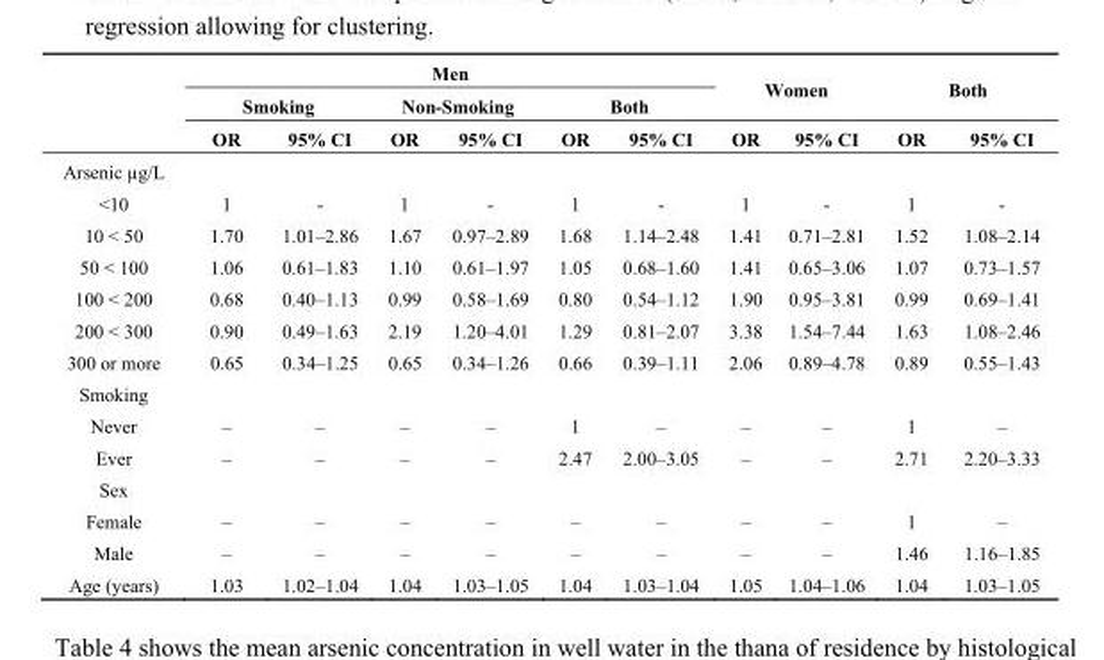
<table><thead><tr><td rowspan="3"></td><td colspan="6">Men</td><td rowspan="2" colspan="2">Women</td><td rowspan="2" colspan="2">Both</td></tr><tr><td colspan="2">Smoking</td><td colspan="2">Non-Smoking</td><td colspan="2">Both</td></tr><tr><td>OR</td><td>95% CI</td><td>OR</td><td>95% CI</td><td>OR</td><td>95% CI</td><td>OR</td><td>95% CI</td><td>OR</td><td>95% CI</td></tr></thead><tbody><tr><td colspan="11">Arsenic µg/L</td></tr><tr><td>&lt;10</td><td>1</td><td>-</td><td>1</td><td>-</td><td>1</td><td>-</td><td>1</td><td>-</td><td>1</td><td>-</td></tr><tr><td>10 &lt; 50</td><td>1.70</td><td>1.01–2.86</td><td>1.67</td><td>0.97–2.89</td><td>1.68</td><td>1.14–2.48</td><td>1.41</td><td>0.71–2.81</td><td>1.52</td><td>1.08–2.14</td></tr><tr><td>50 &lt; 100</td><td>1.06</td><td>0.61–1.83</td><td>1.10</td><td>0.61–1.97</td><td>1.05</td><td>0.68–1.60</td><td>1.41</td><td>0.65–3.06</td><td>1.07</td><td>0.73–1.57</td></tr><tr><td>100 &lt; 200</td><td>0.68</td><td>0.40–1.13</td><td>0.99</td><td>0.58–1.69</td><td>0.80</td><td>0.54–1.12</td><td>1.90</td><td>0.95–3.81</td><td>0.99</td><td>0.69–1.41</td></tr><tr><td>200 &lt; 300</td><td>0.90</td><td>0.49–1.63</td><td>2.19</td><td>1.20–4.01</td><td>1.29</td><td>0.81–2.07</td><td>3.38</td><td>1.54–7.44</td><td>1.63</td><td>1.08–2.46</td></tr><tr><td>300 or more</td><td>0.65</td><td>0.34–1.25</td><td>0.65</td><td>0.34–1.26</td><td>0.66</td><td>0.39–1.11</td><td>2.06</td><td>0.89–4.78</td><td>0.89</td><td>0.55–1.43</td></tr><tr><td colspan="11">Smoking</td></tr><tr><td>Never</td><td>–</td><td>–</td><td>–</td><td>–</td><td>1</td><td>–</td><td>–</td><td>–</td><td>1</td><td>–</td></tr><tr><td>Ever</td><td>–</td><td>–</td><td>–</td><td>–</td><td>2.47</td><td>2.00–3.05</td><td>–</td><td>–</td><td>2.71</td><td>2.20–3.33</td></tr><tr><td colspan="11">Sex</td></tr><tr><td>Female</td><td>–</td><td>–</td><td>–</td><td>–</td><td>–</td><td>–</td><td>–</td><td>–</td><td>1</td><td>–</td></tr><tr><td>Male</td><td>–</td><td>–</td><td>–</td><td>–</td><td>–</td><td>–</td><td>–</td><td>–</td><td>1.46</td><td>1.16–1.85</td></tr><tr><td>Age (years)</td><td>1.03</td><td>1.02–1.04</td><td>1.04</td><td>1.03–1.05</td><td>1.04</td><td>1.03–1.04</td><td>1.05</td><td>1.04–1.06</td><td>1.04</td><td>1.03–1.05</td></tr></tbody></table>